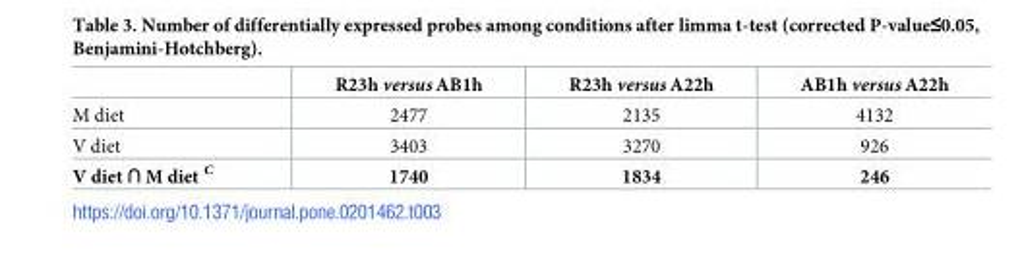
<table><thead><tr><td></td><td>R23h versus AB1h</td><td>R23h versus A22h</td><td>AB1h versus A22h</td></tr></thead><tbody><tr><td>M diet</td><td>2477</td><td>2135</td><td>4132</td></tr><tr><td>V diet</td><td>3403</td><td>3270</td><td>926</td></tr><tr><td>V diet ∩ M diet <sup>C</sup></td><td>1740</td><td>1834</td><td>246</td></tr></tbody></table>